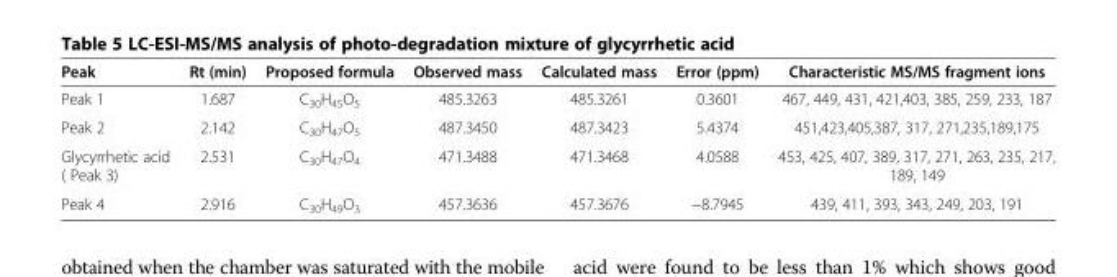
<table><thead><tr><td>Peak</td><td>Rt (min)</td><td>Proposed formula</td><td>Observed mass</td><td>Calculated mass</td><td>Error (ppm)</td><td>Characteristic MS/MS fragment ions</td></tr></thead><tbody><tr><td>Peak 1</td><td>1.687</td><td>C<sub>30</sub>H<sub>45</sub>O<sub>5</sub></td><td>485.3263</td><td>485.3261</td><td>0.3601</td><td>467, 449, 431, 421,403, 385, 259, 233, 187</td></tr><tr><td>Peak 2</td><td>2.142</td><td>C<sub>30</sub>H<sub>47</sub>O<sub>5</sub></td><td>487.3450</td><td>487.3423</td><td>5.4374</td><td>451,423,405,387, 317, 271,235,189,175</td></tr><tr><td>Glycyrrhetic acid ( Peak 3)</td><td>2.531</td><td>C<sub>30</sub>H<sub>47</sub>O<sub>4</sub></td><td>471.3488</td><td>471.3468</td><td>4.0588</td><td>453, 425, 407, 389, 317, 271, 263, 235, 217, 189, 149</td></tr><tr><td>Peak 4</td><td>2.916</td><td>C<sub>30</sub>H<sub>49</sub>O<sub>3</sub></td><td>457.3636</td><td>457.3676</td><td>−8.7945</td><td>439, 411, 393, 343, 249, 203, 191</td></tr></tbody></table>